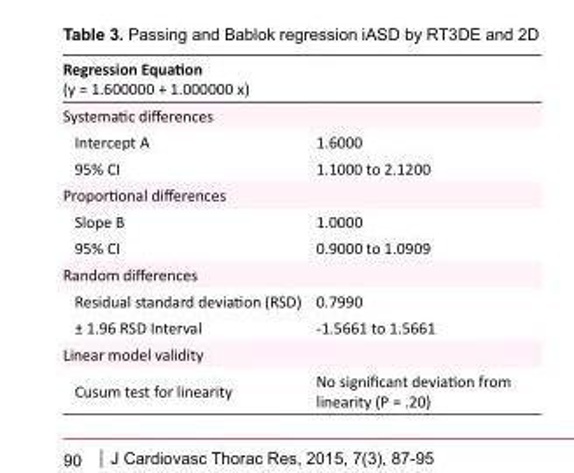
<table><tbody><tr><td colspan="2">Regression Equation (y = 1.600000 + 1.000000 x)</td></tr><tr><td colspan="2">Systematic differences</td></tr><tr><td>Intercept A</td><td>1.6000</td></tr><tr><td>95% CI</td><td>1.1000 to 2.1200</td></tr><tr><td colspan="2">Proportional differences</td></tr><tr><td>Slope B</td><td>1.0000</td></tr><tr><td>95% CI</td><td>0.9000 to 1.0909</td></tr><tr><td colspan="2">Random differences</td></tr><tr><td>Residual standard deviation (RSD)</td><td>0.7990</td></tr><tr><td>± 1.96 RSD Interval</td><td>-1.5661 to 1.5661</td></tr><tr><td colspan="2">Linear model validity</td></tr><tr><td>Cusum test for linearity</td><td>No significant deviation from linearity (P = .20)</td></tr></tbody></table>